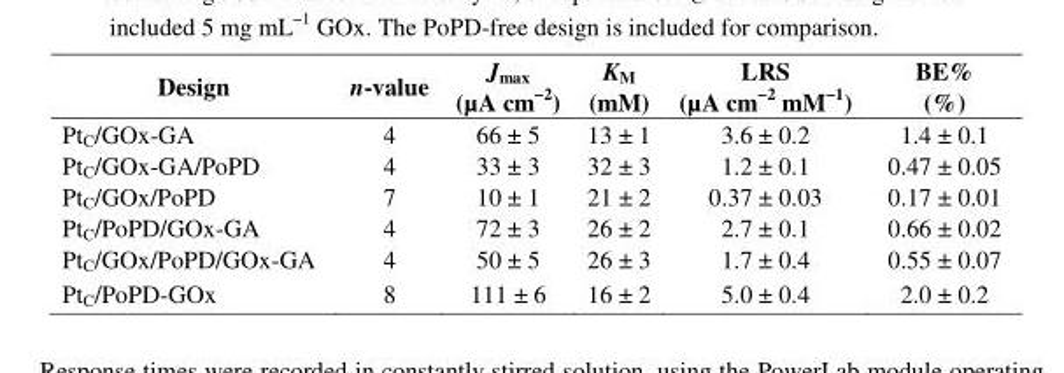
<table><thead><tr><td>Design</td><td>n-value</td><td>J<sub>max</sub> (µA cm<sup>−2</sup>)</td><td>K<sub>M</sub> (mM)</td><td>LRS (µA cm<sup>−2</sup> mM<sup>−1</sup>)</td><td>BE% (%)</td></tr></thead><tbody><tr><td>Pt<sub>C</sub>/GOx-GA</td><td>4</td><td>66 ± 5</td><td>13 ± 1</td><td>3.6 ± 0.2</td><td>1.4 ± 0.1</td></tr><tr><td>Pt<sub>C</sub>/GOx-GA/PoPD</td><td>4</td><td>33 ± 3</td><td>32 ± 3</td><td>1.2 ± 0.1</td><td>0.47 ± 0.05</td></tr><tr><td>Pt<sub>C</sub>/GOx/PoPD</td><td>7</td><td>10 ± 1</td><td>21 ± 2</td><td>0.37 ± 0.03</td><td>0.17 ± 0.01</td></tr><tr><td>Pt<sub>C</sub>/PoPD/GOx-GA</td><td>4</td><td>72 ± 3</td><td>26 ± 2</td><td>2.7 ± 0.1</td><td>0.66 ± 0.02</td></tr><tr><td>Pt<sub>C</sub>/GOx/PoPD/GOx-GA</td><td>4</td><td>50 ± 5</td><td>26 ± 3</td><td>1.7 ± 0.4</td><td>0.55 ± 0.07</td></tr><tr><td>Pt<sub>C</sub>/PoPD-GOx</td><td>8</td><td>111 ± 6</td><td>16 ± 2</td><td>5.0 ± 0.4</td><td>2.0 ± 0.2</td></tr></tbody></table>